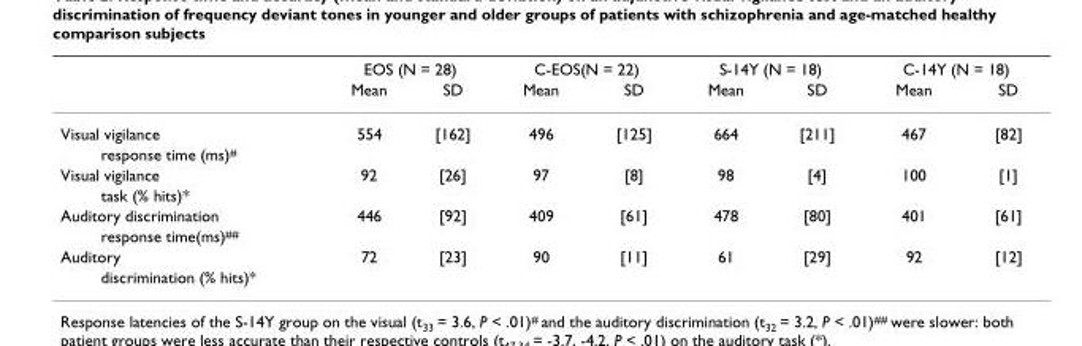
<table><thead><tr><td rowspan="2"></td><td colspan="2">EOS (N = 28)</td><td colspan="2">C-EOS(N = 22)</td><td colspan="2">S-14Y (N = 18)</td><td colspan="2">C-14Y (N = 18)</td></tr><tr><td>Mean</td><td>SD</td><td>Mean</td><td>SD</td><td>Mean</td><td>SD</td><td>Mean</td><td>SD</td></tr></thead><tbody><tr><td>Visual vigilance</td><td>554</td><td>[162]</td><td>496</td><td>[125]</td><td>664</td><td>[211]</td><td>467</td><td>[82]</td></tr><tr><td colspan="9">response time (ms)<sup>#</sup></td></tr><tr><td>Visual vigilance</td><td>92</td><td>[26]</td><td>97</td><td>[8]</td><td>98</td><td>[4]</td><td>100</td><td>[1]</td></tr><tr><td colspan="9">task (% hits)*</td></tr><tr><td>Auditory discrimination</td><td>446</td><td>[92]</td><td>409</td><td>[61]</td><td>478</td><td>[80]</td><td>401</td><td>[61]</td></tr><tr><td colspan="9">response time(ms)<sup>##</sup></td></tr><tr><td>Auditory</td><td>72</td><td>[23]</td><td>90</td><td>[11]</td><td>61</td><td>[29]</td><td>92</td><td>[12]</td></tr><tr><td colspan="9">discrimination (% hits)*</td></tr></tbody></table>